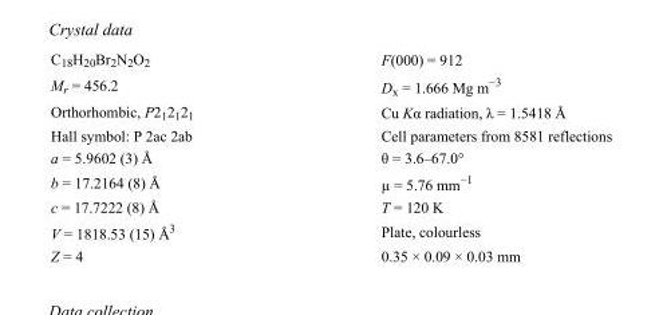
<table><tbody><tr><td>C<sub>18</sub>H<sub>20</sub>Br<sub>2</sub>N<sub>2</sub>O<sub>2</sub></td><td>F(000) = 912</td></tr><tr><td>M<sub>r</sub> = 456.2</td><td>D<sub>x</sub> = 1.666 Mg m<sup>−3</sup></td></tr><tr><td>Orthorhombic, P2<sub>1</sub>2<sub>1</sub>2<sub>1</sub></td><td>Cu Kα radiation, λ = 1.5418 Å</td></tr><tr><td>Hall symbol: P 2ac 2ab</td><td>Cell parameters from 8581 reflections</td></tr><tr><td>a = 5.9602 (3) Å</td><td>θ = 3.6–67.0°</td></tr><tr><td>b = 17.2164 (8) Å</td><td>µ = 5.76 mm<sup>−1</sup></td></tr><tr><td>c = 17.7222 (8) Å</td><td>T = 120 K</td></tr><tr><td>V = 1818.53 (15) Å<sup>3</sup></td><td>Plate, colourless</td></tr><tr><td>Z = 4</td><td>0.35 × 0.09 × 0.03 mm</td></tr></tbody></table>